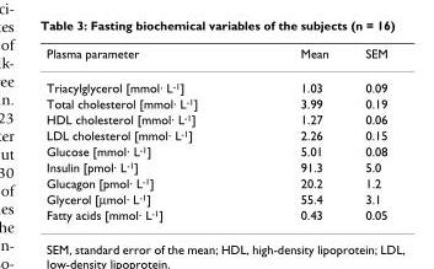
<table><thead><tr><td>Plasma parameter</td><td>Mean</td><td>SEM</td></tr></thead><tbody><tr><td>Triacylglycerol [mmol· L<sup>-1</sup>]</td><td>1.03</td><td>0.09</td></tr><tr><td>Total cholesterol [mmol· L<sup>-1</sup>]</td><td>3.99</td><td>0.19</td></tr><tr><td>HDL cholesterol [mmol· L<sup>-1</sup>]</td><td>1.27</td><td>0.06</td></tr><tr><td>LDL cholesterol [mmol· L<sup>-1</sup>]</td><td>2.26</td><td>0.15</td></tr><tr><td>Glucose [mmol· L<sup>-1</sup>]</td><td>5.01</td><td>0.08</td></tr><tr><td>Insulin [pmol· L<sup>-1</sup>]</td><td>91.3</td><td>5.0</td></tr><tr><td>Glucagon [pmol· L<sup>-1</sup>]</td><td>20.2</td><td>1.2</td></tr><tr><td>Glycerol [µmol· L<sup>-1</sup>]</td><td>55.4</td><td>3.1</td></tr><tr><td>Fatty acids [mmol· L<sup>-1</sup>]</td><td>0.43</td><td>0.05</td></tr></tbody></table>